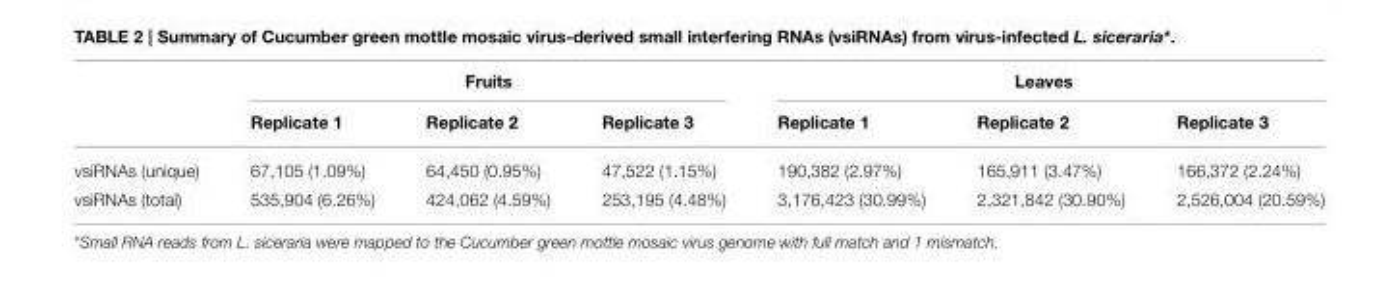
<table><thead><tr><td rowspan="2"></td><td colspan="3">Fruits</td><td colspan="3">Leaves</td></tr><tr><td>Replicate 1</td><td>Replicate 2</td><td>Replicate 3</td><td>Replicate 1</td><td>Replicate 2</td><td>Replicate 3</td></tr></thead><tbody><tr><td>vsiRNAs (unique)</td><td>67,105 (1.09%)</td><td>64,450 (0.95%)</td><td>47,522 (1.15%)</td><td>190,382 (2.97%)</td><td>165,911 (3.47%)</td><td>166,372 (2.24%)</td></tr><tr><td>vsiRNAs (total)</td><td>535,904 (6.26%)</td><td>424,062 (4.59%)</td><td>253,195 (4.48%)</td><td>3,176,423 (30.99%)</td><td>2,321,842 (30.90%)</td><td>2,526,004 (20.59%)</td></tr></tbody></table>